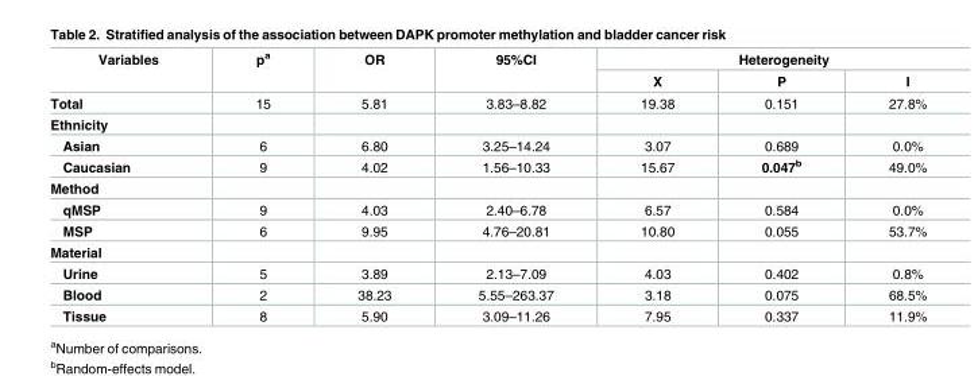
<table><thead><tr><td rowspan="2">Variables</td><td rowspan="2">p<sup>a</sup></td><td rowspan="2">OR</td><td rowspan="2">95%CI</td><td colspan="3">Heterogeneity</td></tr><tr><td>X</td><td>P</td><td>I</td></tr></thead><tbody><tr><td>Total</td><td>15</td><td>5.81</td><td>3.83–8.82</td><td>19.38</td><td>0.151</td><td>27.8%</td></tr><tr><td colspan="7">Ethnicity</td></tr><tr><td>Asian</td><td>6</td><td>6.80</td><td>3.25–14.24</td><td>3.07</td><td>0.689</td><td>0.0%</td></tr><tr><td>Caucasian</td><td>9</td><td>4.02</td><td>1.56–10.33</td><td>15.67</td><td>0.047<sup>b</sup></td><td>49.0%</td></tr><tr><td colspan="7">Method</td></tr><tr><td>qMSP</td><td>9</td><td>4.03</td><td>2.40–6.78</td><td>6.57</td><td>0.584</td><td>0.0%</td></tr><tr><td>MSP</td><td>6</td><td>9.95</td><td>4.76–20.81</td><td>10.80</td><td>0.055</td><td>53.7%</td></tr><tr><td colspan="7">Material</td></tr><tr><td>Urine</td><td>5</td><td>3.89</td><td>2.13–7.09</td><td>4.03</td><td>0.402</td><td>0.8%</td></tr><tr><td>Blood</td><td>2</td><td>38.23</td><td>5.55–263.37</td><td>3.18</td><td>0.075</td><td>68.5%</td></tr><tr><td>Tissue</td><td>8</td><td>5.90</td><td>3.09–11.26</td><td>7.95</td><td>0.337</td><td>11.9%</td></tr></tbody></table>